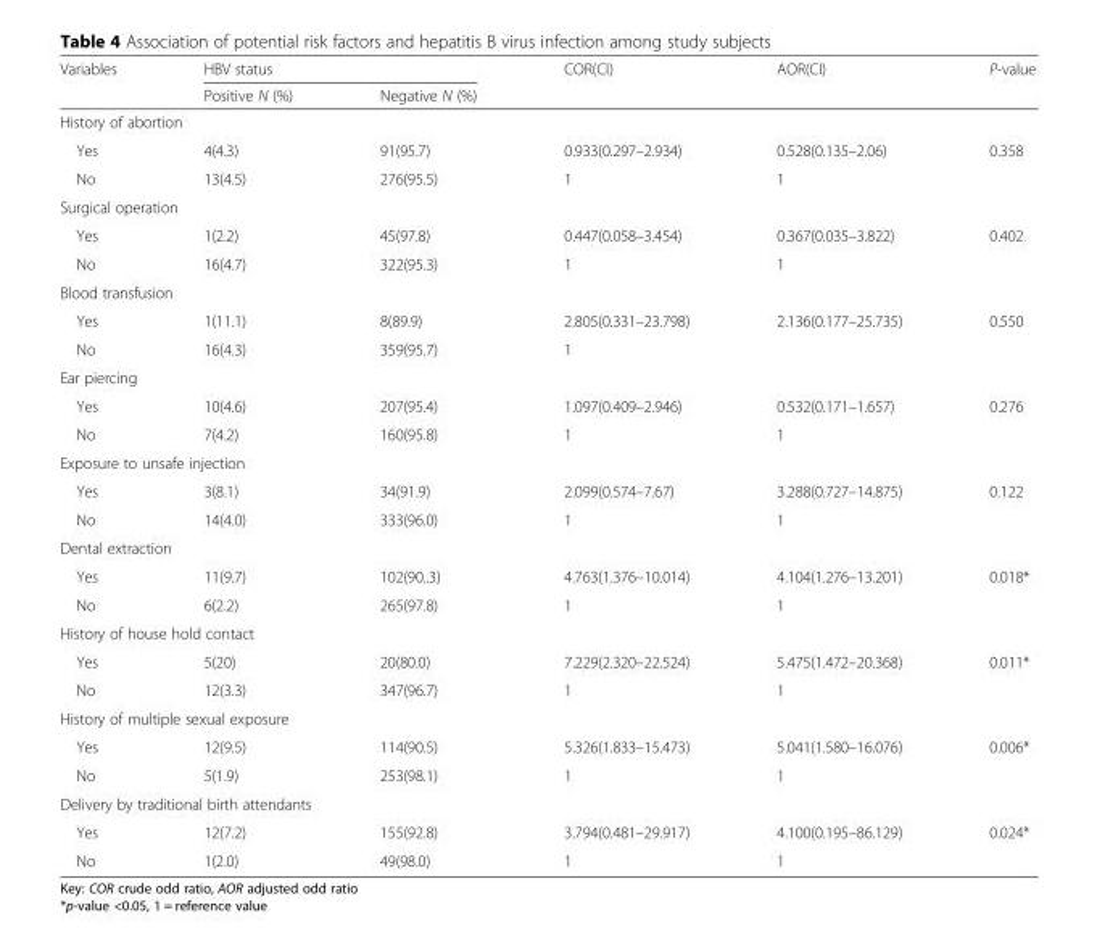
<table><thead><tr><td rowspan="2">Variables</td><td colspan="2">HBV status</td><td rowspan="2">COR(CI)</td><td rowspan="2">AOR(CI)</td><td rowspan="2">P-value</td></tr><tr><td>Positive N (%)</td><td>Negative N (%)</td></tr></thead><tbody><tr><td colspan="6">History of abortion</td></tr><tr><td>Yes</td><td>4(4.3)</td><td>91(95.7)</td><td>0.933(0.297–2.934)</td><td>0.528(0.135–2.06)</td><td>0.358</td></tr><tr><td>No</td><td>13(4.5)</td><td>276(95.5)</td><td>1</td><td>1</td><td></td></tr><tr><td colspan="6">Surgical operation</td></tr><tr><td>Yes</td><td>1(2.2)</td><td>45(97.8)</td><td>0.447(0.058–3.454)</td><td>0.367(0.035–3.822)</td><td>0.402</td></tr><tr><td>No</td><td>16(4.7)</td><td>322(95.3)</td><td>1</td><td>1</td><td></td></tr><tr><td colspan="6">Blood transfusion</td></tr><tr><td>Yes</td><td>1(11.1)</td><td>8(89.9)</td><td>2.805(0.331–23.798)</td><td>2.136(0.177–25.735)</td><td>0.550</td></tr><tr><td>No</td><td>16(4.3)</td><td>359(95.7)</td><td>1</td><td></td><td></td></tr><tr><td colspan="6">Ear piercing</td></tr><tr><td>Yes</td><td>10(4.6)</td><td>207(95.4)</td><td>1.097(0.409–2.946)</td><td>0.532(0.171–1.657)</td><td>0.276</td></tr><tr><td>No</td><td>7(4.2)</td><td>160(95.8)</td><td>1</td><td>1</td><td></td></tr><tr><td colspan="6">Exposure to unsafe injection</td></tr><tr><td>Yes</td><td>3(8.1)</td><td>34(91.9)</td><td>2.099(0.574–7.67)</td><td>3.288(0.727–14.875)</td><td>0.122</td></tr><tr><td>No</td><td>14(4.0)</td><td>333(96.0)</td><td>1</td><td>1</td><td></td></tr><tr><td colspan="6">Dental extraction</td></tr><tr><td>Yes</td><td>11(9.7)</td><td>102(90..3)</td><td>4.763(1.376–10.014)</td><td>4.104(1.276–13.201)</td><td>0.018*</td></tr><tr><td>No</td><td>6(2.2)</td><td>265(97.8)</td><td>1</td><td>1</td><td></td></tr><tr><td colspan="6">History of house hold contact</td></tr><tr><td>Yes</td><td>5(20)</td><td>20(80.0)</td><td>7.229(2.320–22.524)</td><td>5.475(1.472–20.368)</td><td>0.011*</td></tr><tr><td>No</td><td>12(3.3)</td><td>347(96.7)</td><td>1</td><td>1</td><td></td></tr><tr><td colspan="6">History of multiple sexual exposure</td></tr><tr><td>Yes</td><td>12(9.5)</td><td>114(90.5)</td><td>5.326(1.833–15.473)</td><td>5.041(1.580–16.076)</td><td>0.006*</td></tr><tr><td>No</td><td>5(1.9)</td><td>253(98.1)</td><td>1</td><td>1</td><td></td></tr><tr><td colspan="6">Delivery by traditional birth attendants</td></tr><tr><td>Yes</td><td>12(7.2)</td><td>155(92.8)</td><td>3.794(0.481–29.917)</td><td>4.100(0.195–86.129)</td><td>0.024*</td></tr><tr><td>No</td><td>1(2.0)</td><td>49(98.0)</td><td>1</td><td>1</td><td></td></tr></tbody></table>